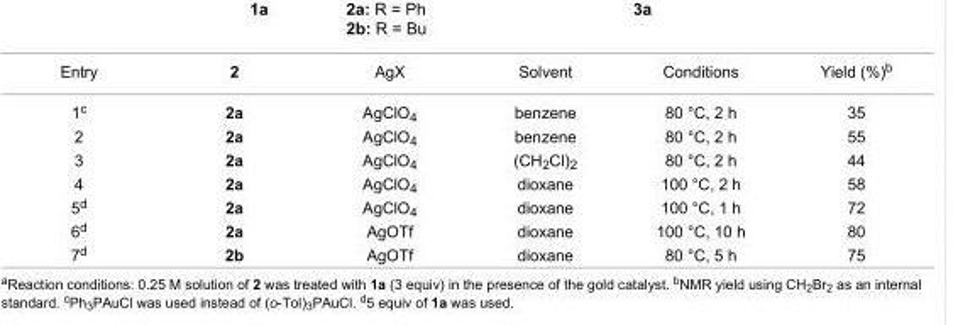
<table><tbody><tr><td>Entry</td><td>2</td><td>AgX</td><td>Solvent</td><td>Conditions</td><td>Yield (%)<sup>b</sup></td></tr><tr><td>1<sup>c</sup></td><td>2a</td><td>AgClO<sub>4</sub></td><td>benzene</td><td>80 °C, 2 h</td><td>35</td></tr><tr><td>2</td><td>2a</td><td>AgClO<sub>4</sub></td><td>benzene</td><td>80 °C, 2 h</td><td>55</td></tr><tr><td>3</td><td>2a</td><td>AgClO<sub>4</sub></td><td>(CH<sub>2</sub>Cl)<sub>2</sub></td><td>80 °C, 2 h</td><td>44</td></tr><tr><td>4</td><td>2a</td><td>AgClO<sub>4</sub></td><td>dioxane</td><td>100 °C, 2 h</td><td>58</td></tr><tr><td>5<sup>d</sup></td><td>2a</td><td>AgClO<sub>4</sub></td><td>dioxane</td><td>100 °C, 1 h</td><td>72</td></tr><tr><td>6<sup>d</sup></td><td>2a</td><td>AgOTf</td><td>dioxane</td><td>100 °C, 10 h</td><td>80</td></tr><tr><td>7<sup>d</sup></td><td>2b</td><td>AgOTf</td><td>dioxane</td><td>80 °C, 5 h</td><td>75</td></tr></tbody></table>